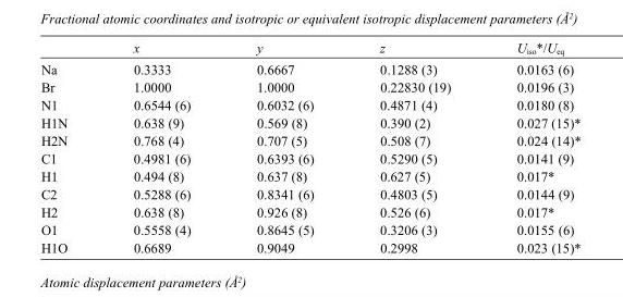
<table><thead><tr><td></td><td>x</td><td>y</td><td>z</td><td>U<sub>iso</sub>*/U<sub>eq</sub></td></tr></thead><tbody><tr><td>Na</td><td>0.3333</td><td>0.6667</td><td>0.1288 (3)</td><td>0.0163 (6)</td></tr><tr><td>Br</td><td>1.0000</td><td>1.0000</td><td>0.22830 (19)</td><td>0.0196 (3)</td></tr><tr><td>N1</td><td>0.6544 (6)</td><td>0.6032 (6)</td><td>0.4871 (4)</td><td>0.0180 (8)</td></tr><tr><td>H1N</td><td>0.638 (9)</td><td>0.569 (8)</td><td>0.390 (2)</td><td>0.027 (15)*</td></tr><tr><td>H2N</td><td>0.768 (4)</td><td>0.707 (5)</td><td>0.508 (7)</td><td>0.024 (14)*</td></tr><tr><td>C1</td><td>0.4981 (6)</td><td>0.6393 (6)</td><td>0.5290 (5)</td><td>0.0141 (9)</td></tr><tr><td>H1</td><td>0.494 (8)</td><td>0.637 (8)</td><td>0.627 (5)</td><td>0.017*</td></tr><tr><td>C2</td><td>0.5288 (6)</td><td>0.8341 (6)</td><td>0.4803 (5)</td><td>0.0144 (9)</td></tr><tr><td>H2</td><td>0.638 (8)</td><td>0.926 (8)</td><td>0.526 (6)</td><td>0.017*</td></tr><tr><td>O1</td><td>0.5558 (4)</td><td>0.8645 (5)</td><td>0.3206 (3)</td><td>0.0155 (6)</td></tr><tr><td>H1O</td><td>0.6689</td><td>0.9049</td><td>0.2998</td><td>0.023 (15)*</td></tr></tbody></table>